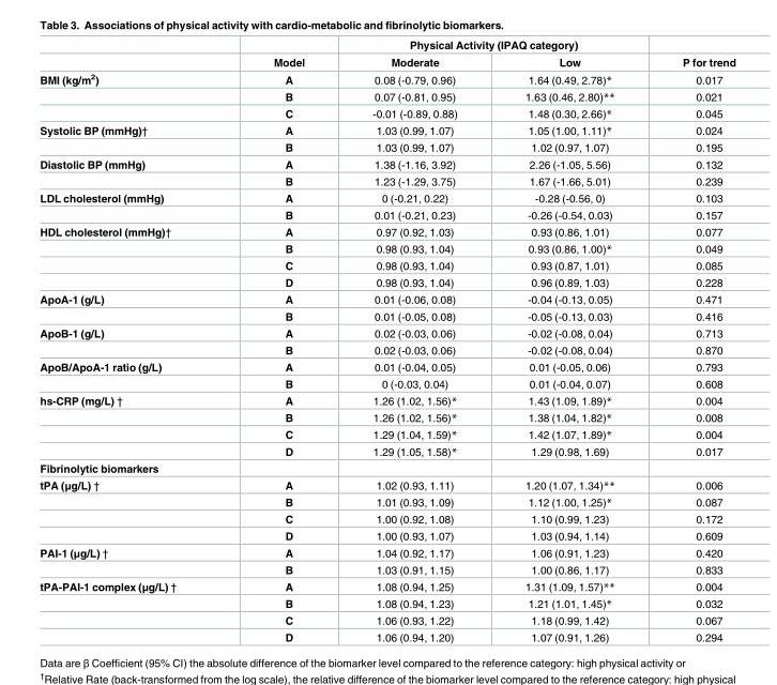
<table><thead><tr><td rowspan="2"></td><td rowspan="2">Model</td><td colspan="2">Physical Activity (IPAQ category)</td><td rowspan="2">P for trend</td></tr><tr><td>Moderate</td><td>Low</td></tr></thead><tbody><tr><td rowspan="3">BMI (kg/m<sup>2</sup>)</td><td>A</td><td>0.08 (-0.79, 0.96)</td><td>1.64 (0.49, 2.78)*</td><td>0.017</td></tr><tr><td>B</td><td>0.07 (-0.81, 0.95)</td><td>1.63 (0.46, 2.80)**</td><td>0.021</td></tr><tr><td>C</td><td>-0.01 (-0.89, 0.88)</td><td>1.48 (0.30, 2.66)*</td><td>0.045</td></tr><tr><td rowspan="2">Systolic BP (mmHg)†</td><td>A</td><td>1.03 (0.99, 1.07)</td><td>1.05 (1.00, 1.11)*</td><td>0.024</td></tr><tr><td>B</td><td>1.03 (0.99, 1.07)</td><td>1.02 (0.97, 1.07)</td><td>0.195</td></tr><tr><td rowspan="2">Diastolic BP (mmHg)</td><td>A</td><td>1.38 (-1.16, 3.92)</td><td>2.26 (-1.05, 5.56)</td><td>0.132</td></tr><tr><td>B</td><td>1.23 (-1.29, 3.75)</td><td>1.67 (-1.66, 5.01)</td><td>0.239</td></tr><tr><td rowspan="2">LDL cholesterol (mmHg)</td><td>A</td><td>0 (-0.21, 0.22)</td><td>-0.28 (-0.56, 0)</td><td>0.103</td></tr><tr><td>B</td><td>0.01 (-0.21, 0.23)</td><td>-0.26 (-0.54, 0.03)</td><td>0.157</td></tr><tr><td rowspan="4">HDL cholesterol (mmHg)†</td><td>A</td><td>0.97 (0.92, 1.03)</td><td>0.93 (0.86, 1.01)</td><td>0.077</td></tr><tr><td>B</td><td>0.98 (0.93, 1.04)</td><td>0.93 (0.86, 1.00)*</td><td>0.049</td></tr><tr><td>C</td><td>0.98 (0.93, 1.04)</td><td>0.93 (0.87, 1.01)</td><td>0.085</td></tr><tr><td>D</td><td>0.98 (0.93, 1.04)</td><td>0.96 (0.89, 1.03)</td><td>0.228</td></tr><tr><td rowspan="2">ApoA-1 (g/L)</td><td>A</td><td>0.01 (-0.06, 0.08)</td><td>-0.04 (-0.13, 0.05)</td><td>0.471</td></tr><tr><td>B</td><td>0.01 (-0.05, 0.08)</td><td>-0.05 (-0.13, 0.03)</td><td>0.416</td></tr><tr><td rowspan="2">ApoB-1 (g/L)</td><td>A</td><td>0.02 (-0.03, 0.06)</td><td>-0.02 (-0.08, 0.04)</td><td>0.713</td></tr><tr><td>B</td><td>0.02 (-0.03, 0.06)</td><td>-0.02 (-0.08, 0.04)</td><td>0.870</td></tr><tr><td rowspan="2">ApoB/ApoA-1 ratio (g/L)</td><td>A</td><td>0.01 (-0.04, 0.05)</td><td>0.01 (-0.05, 0.06)</td><td>0.793</td></tr><tr><td>B</td><td>0 (-0.03, 0.04)</td><td>0.01 (-0.04, 0.07)</td><td>0.608</td></tr><tr><td rowspan="4">hs-CRP (mg/L) †</td><td>A</td><td>1.26 (1.02, 1.56)*</td><td>1.43 (1.09, 1.89)*</td><td>0.004</td></tr><tr><td>B</td><td>1.26 (1.02, 1.56)*</td><td>1.38 (1.04, 1.82)*</td><td>0.008</td></tr><tr><td>C</td><td>1.29 (1.04, 1.59)*</td><td>1.42 (1.07, 1.89)*</td><td>0.004</td></tr><tr><td>D</td><td>1.29 (1.05, 1.58)*</td><td>1.29 (0.98, 1.69)</td><td>0.017</td></tr><tr><td colspan="5">Fibrinolytic biomarkers</td></tr><tr><td rowspan="4">tPA (μg/L) †</td><td>A</td><td>1.02 (0.93, 1.11)</td><td>1.20 (1.07, 1.34)**</td><td>0.006</td></tr><tr><td>B</td><td>1.01 (0.93, 1.09)</td><td>1.12 (1.00, 1.25)*</td><td>0.087</td></tr><tr><td>C</td><td>1.00 (0.92, 1.08)</td><td>1.10 (0.99, 1.23)</td><td>0.172</td></tr><tr><td>D</td><td>1.00 (0.93, 1.07)</td><td>1.03 (0.94, 1.14)</td><td>0.609</td></tr><tr><td rowspan="2">PAI-1 (μg/L) †</td><td>A</td><td>1.04 (0.92, 1.17)</td><td>1.06 (0.91, 1.23)</td><td>0.420</td></tr><tr><td>B</td><td>1.03 (0.91, 1.15)</td><td>1.00 (0.86, 1.17)</td><td>0.833</td></tr><tr><td rowspan="4">tPA-PAI-1 complex (μg/L) †</td><td>A</td><td>1.08 (0.94, 1.25)</td><td>1.31 (1.09, 1.57)**</td><td>0.004</td></tr><tr><td>B</td><td>1.08 (0.94, 1.23)</td><td>1.21 (1.01, 1.45)*</td><td>0.032</td></tr><tr><td>C</td><td>1.06 (0.93, 1.22)</td><td>1.18 (0.99, 1.42)</td><td>0.067</td></tr><tr><td>D</td><td>1.06 (0.94, 1.20)</td><td>1.07 (0.91, 1.26)</td><td>0.294</td></tr></tbody></table>